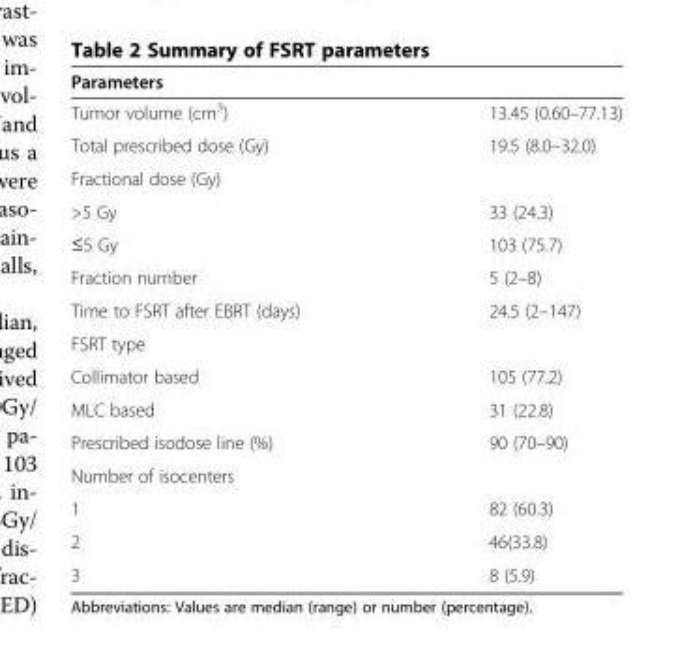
<table><thead><tr><td>Parameters</td><td></td></tr></thead><tbody><tr><td>Tumor volume (cm<sup>3</sup>)</td><td>13.45 (0.60–77.13)</td></tr><tr><td>Total prescribed dose (Gy)</td><td>19.5 (8.0–32.0)</td></tr><tr><td colspan="2">Fractional dose (Gy)</td></tr><tr><td>&gt;5 Gy</td><td>33 (24.3)</td></tr><tr><td>≤5 Gy</td><td>103 (75.7)</td></tr><tr><td>Fraction number</td><td>5 (2–8)</td></tr><tr><td>Time to FSRT after EBRT (days)</td><td>24.5 (2–147)</td></tr><tr><td colspan="2">FSRT type</td></tr><tr><td>Collimator based</td><td>105 (77.2)</td></tr><tr><td>MLC based</td><td>31 (22.8)</td></tr><tr><td>Prescribed isodose line (%)</td><td>90 (70–90)</td></tr><tr><td colspan="2">Number of isocenters</td></tr><tr><td>1</td><td>82 (60.3)</td></tr><tr><td>2</td><td>46(33.8)</td></tr><tr><td>3</td><td>8 (5.9)</td></tr></tbody></table>